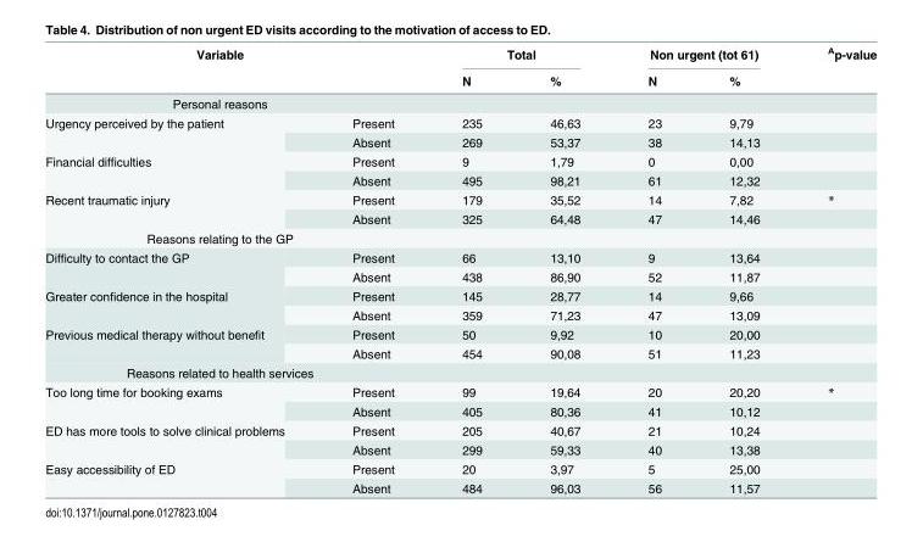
<table><thead><tr><td colspan="2">Variable</td><td colspan="2">Total</td><td colspan="2">Non urgent (tot 61)</td><td rowspan="2"><sup>A</sup>p-value</td></tr><tr><td></td><td></td><td>N</td><td>%</td><td>N</td><td>%</td></tr></thead><tbody><tr><td colspan="7">Personal reasons</td></tr><tr><td rowspan="2">Urgency perceived by the patient</td><td>Present</td><td>235</td><td>46,63</td><td>23</td><td>9,79</td><td></td></tr><tr><td>Absent</td><td>269</td><td>53,37</td><td>38</td><td>14,13</td><td></td></tr><tr><td rowspan="2">Financial difficulties</td><td>Present</td><td>9</td><td>1,79</td><td>0</td><td>0,00</td><td></td></tr><tr><td>Absent</td><td>495</td><td>98,21</td><td>61</td><td>12,32</td><td></td></tr><tr><td rowspan="2">Recent traumatic injury</td><td>Present</td><td>179</td><td>35,52</td><td>14</td><td>7,82</td><td>*</td></tr><tr><td>Absent</td><td>325</td><td>64,48</td><td>47</td><td>14,46</td><td></td></tr><tr><td colspan="7">Reasons relating to the GP</td></tr><tr><td rowspan="2">Difficulty to contact the GP</td><td>Present</td><td>66</td><td>13,10</td><td>9</td><td>13,64</td><td></td></tr><tr><td>Absent</td><td>438</td><td>86,90</td><td>52</td><td>11,87</td><td></td></tr><tr><td rowspan="2">Greater confidence in the hospital</td><td>Present</td><td>145</td><td>28,77</td><td>14</td><td>9,66</td><td></td></tr><tr><td>Absent</td><td>359</td><td>71,23</td><td>47</td><td>13,09</td><td></td></tr><tr><td rowspan="2">Previous medical therapy without benefit</td><td>Present</td><td>50</td><td>9,92</td><td>10</td><td>20,00</td><td></td></tr><tr><td>Absent</td><td>454</td><td>90,08</td><td>51</td><td>11,23</td><td></td></tr><tr><td colspan="7">Reasons related to health services</td></tr><tr><td rowspan="2">Too long time for booking exams</td><td>Present</td><td>99</td><td>19,64</td><td>20</td><td>20,20</td><td>*</td></tr><tr><td>Absent</td><td>405</td><td>80,36</td><td>41</td><td>10,12</td><td></td></tr><tr><td rowspan="2">ED has more tools to solve clinical problems</td><td>Present</td><td>205</td><td>40,67</td><td>21</td><td>10,24</td><td></td></tr><tr><td>Absent</td><td>299</td><td>59,33</td><td>40</td><td>13,38</td><td></td></tr><tr><td rowspan="2">Easy accessibility of ED</td><td>Present</td><td>20</td><td>3,97</td><td>5</td><td>25,00</td><td></td></tr><tr><td>Absent</td><td>484</td><td>96,03</td><td>56</td><td>11,57</td><td></td></tr></tbody></table>